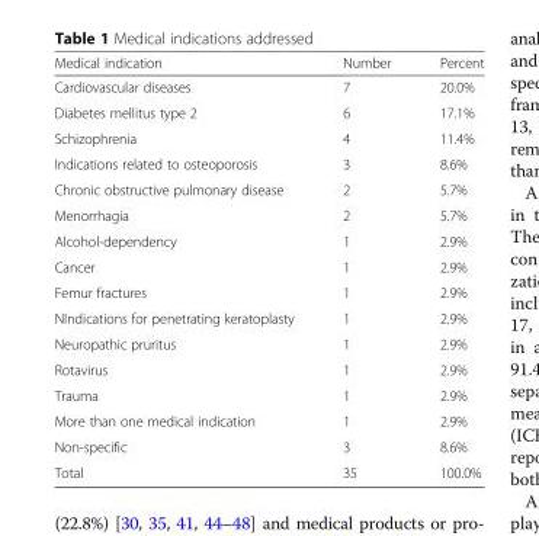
<table><thead><tr><td>Medical indication</td><td>Number</td><td>Percent</td></tr></thead><tbody><tr><td>Cardiovascular diseases</td><td>7</td><td>20.0%</td></tr><tr><td>Diabetes mellitus type 2</td><td>6</td><td>17.1%</td></tr><tr><td>Schizophrenia</td><td>4</td><td>11.4%</td></tr><tr><td>Indications related to osteoporosis</td><td>3</td><td>8.6%</td></tr><tr><td>Chronic obstructive pulmonary disease</td><td>2</td><td>5.7%</td></tr><tr><td>Menorrhagia</td><td>2</td><td>5.7%</td></tr><tr><td>Alcohol-dependency</td><td>1</td><td>2.9%</td></tr><tr><td>Cancer</td><td>1</td><td>2.9%</td></tr><tr><td>Femur fractures</td><td>1</td><td>2.9%</td></tr><tr><td>NIndications for penetrating keratoplasty</td><td>1</td><td>2.9%</td></tr><tr><td>Neuropathic pruritus</td><td>1</td><td>2.9%</td></tr><tr><td>Rotavirus</td><td>1</td><td>2.9%</td></tr><tr><td>Trauma</td><td>1</td><td>2.9%</td></tr><tr><td>More than one medical indication</td><td>1</td><td>2.9%</td></tr><tr><td>Non-specific</td><td>3</td><td>8.6%</td></tr><tr><td>Total</td><td>35</td><td>100.0%</td></tr></tbody></table>